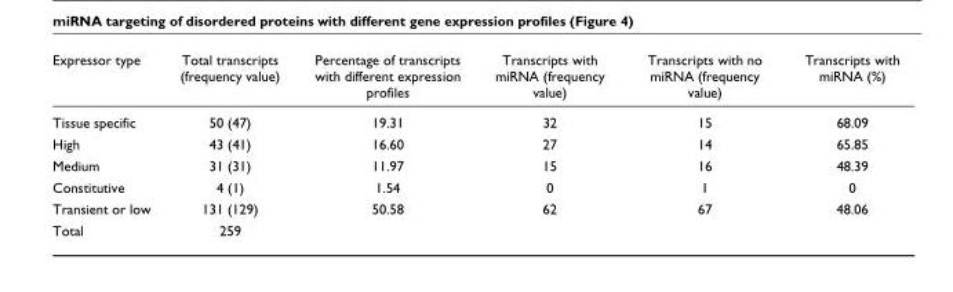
<table><thead><tr><td>Expressor type</td><td>Total transcripts (frequency value)</td><td>Percentage of transcripts with different expression profiles</td><td>Transcripts with miRNA (frequency value)</td><td>Transcripts with no miRNA (frequency value)</td><td>Transcripts with miRNA (%)</td></tr></thead><tbody><tr><td>Tissue specific</td><td>50 (47)</td><td>19.31</td><td>32</td><td>15</td><td>68.09</td></tr><tr><td>High</td><td>43 (41)</td><td>16.60</td><td>27</td><td>14</td><td>65.85</td></tr><tr><td>Medium</td><td>31 (31)</td><td>11.97</td><td>15</td><td>16</td><td>48.39</td></tr><tr><td>Constitutive</td><td>4 (1)</td><td>1.54</td><td>0</td><td>1</td><td>0</td></tr><tr><td>Transient or low</td><td>131 (129)</td><td>50.58</td><td>62</td><td>67</td><td>48.06</td></tr><tr><td>Total</td><td>259</td><td></td><td></td><td></td><td></td></tr></tbody></table>